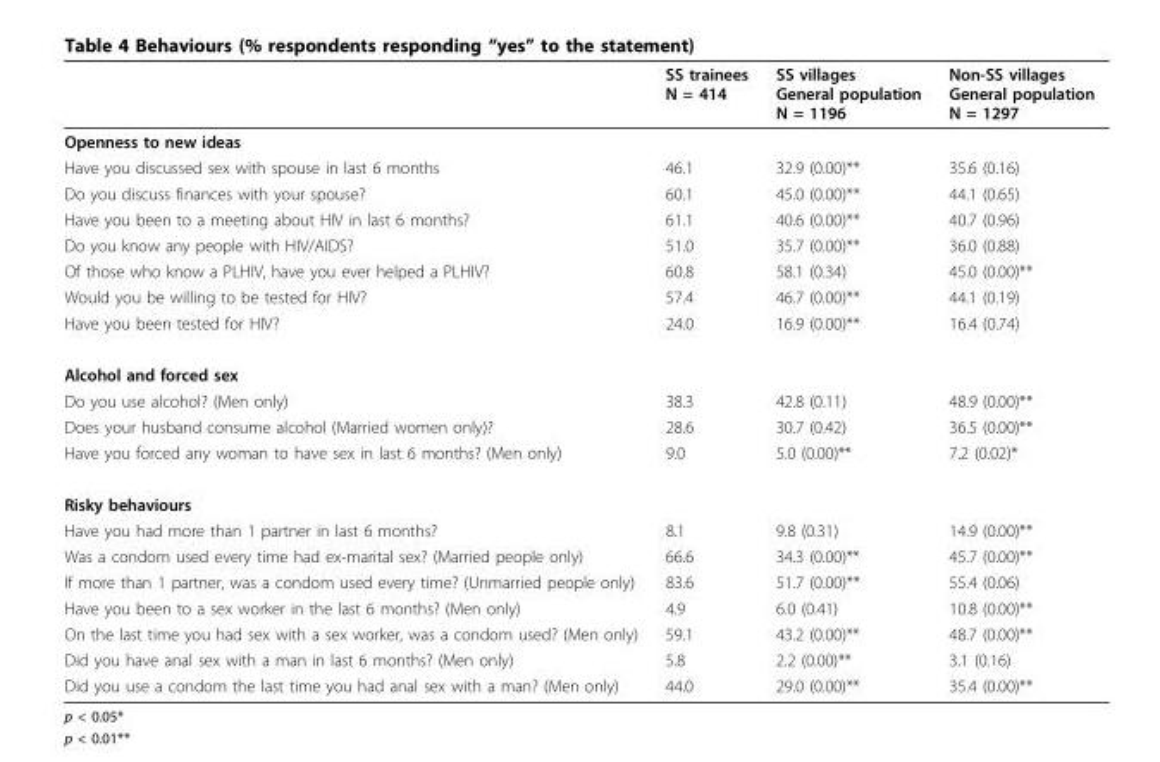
<table><thead><tr><td></td><td>SS trainees N = 414</td><td>SS villages General population N = 1196</td><td>Non-SS villages General population N = 1297</td></tr></thead><tbody><tr><td colspan="4">Openness to new ideas</td></tr><tr><td>Have you discussed sex with spouse in last 6 months</td><td>46.1</td><td>32.9 (0.00)**</td><td>35.6 (0.16)</td></tr><tr><td>Do you discuss finances with your spouse?</td><td>60.1</td><td>45.0 (0.00)**</td><td>44.1 (0.65)</td></tr><tr><td>Have you been to a meeting about HIV in last 6 months?</td><td>61.1</td><td>40.6 (0.00)**</td><td>40.7 (0.96)</td></tr><tr><td>Do you know any people with HIV/AIDS?</td><td>51.0</td><td>35.7 (0.00)**</td><td>36.0 (0.88)</td></tr><tr><td>Of those who know a PLHIV, have you ever helped a PLHIV?</td><td>60.8</td><td>58.1 (0.34)</td><td>45.0 (0.00)**</td></tr><tr><td>Would you be willing to be tested for HIV?</td><td>57.4</td><td>46.7 (0.00)**</td><td>44.1 (0.19)</td></tr><tr><td>Have you been tested for HIV?</td><td>24.0</td><td>16.9 (0.00)**</td><td>16.4 (0.74)</td></tr><tr><td colspan="4">Alcohol and forced sex</td></tr><tr><td>Do you use alcohol? (Men only)</td><td>38.3</td><td>42.8 (0.11)</td><td>48.9 (0.00)**</td></tr><tr><td>Does your husband consume alcohol (Married women only)?</td><td>28.6</td><td>30.7 (0.42)</td><td>36.5 (0.00)**</td></tr><tr><td>Have you forced any woman to have sex in last 6 months? (Men only)</td><td>9.0</td><td>5.0 (0.00)**</td><td>7.2 (0.02)*</td></tr><tr><td colspan="4">Risky behaviours</td></tr><tr><td>Have you had more than 1 partner in last 6 months?</td><td>8.1</td><td>9.8 (0.31)</td><td>14.9 (0.00)**</td></tr><tr><td>Was a condom used every time had ex-marital sex? (Married people only)</td><td>66.6</td><td>34.3 (0.00)**</td><td>45.7 (0.00)**</td></tr><tr><td>If more than 1 partner, was a condom used every time? (Unmarried people only)</td><td>83.6</td><td>51.7 (0.00)**</td><td>55.4 (0.06)</td></tr><tr><td>Have you been to a sex worker in the last 6 months? (Men only)</td><td>4.9</td><td>6.0 (0.41)</td><td>10.8 (0.00)**</td></tr><tr><td>On the last time you had sex with a sex worker, was a condom used? (Men only)</td><td>59.1</td><td>43.2 (0.00)**</td><td>48.7 (0.00)**</td></tr><tr><td>Did you have anal sex with a man in last 6 months? (Men only)</td><td>5.8</td><td>2.2 (0.00)**</td><td>3.1 (0.16)</td></tr><tr><td>Did you use a condom the last time you had anal sex with a man? (Men only)</td><td>44.0</td><td>29.0 (0.00)**</td><td>35.4 (0.00)**</td></tr></tbody></table>